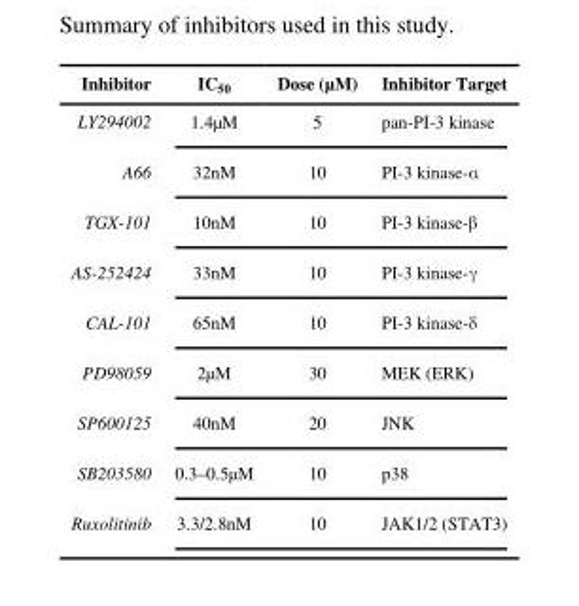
<table><thead><tr><td>Inhibitor</td><td>IC<sub>50</sub></td><td>Dose (µM)</td><td>Inhibitor Target</td></tr></thead><tbody><tr><td>LY294002</td><td>1.4µM</td><td>5</td><td>pan-PI-3 kinase</td></tr><tr><td>A66</td><td>32nM</td><td>10</td><td>PI-3 kinase-α</td></tr><tr><td>TGX-101</td><td>10nM</td><td>10</td><td>PI-3 kinase-β</td></tr><tr><td>AS-252424</td><td>33nM</td><td>10</td><td>PI-3 kinase-γ</td></tr><tr><td>CAL-101</td><td>65nM</td><td>10</td><td>PI-3 kinase-δ</td></tr><tr><td>PD98059</td><td>2µM</td><td>30</td><td>MEK (ERK)</td></tr><tr><td>SP600125</td><td>40nM</td><td>20</td><td>JNK</td></tr><tr><td>SB203580</td><td>0.3–0.5µM</td><td>10</td><td>p38</td></tr><tr><td>Ruxolitinib</td><td>3.3/2.8nM</td><td>10</td><td>JAK1/2 (STAT3)</td></tr></tbody></table>